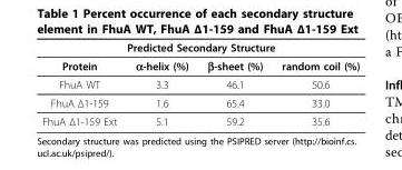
<table><thead><tr><td colspan="4">Predicted Secondary Structure</td></tr><tr><td>Protein</td><td>α-helix (%)</td><td>β-sheet (%)</td><td>random coil (%)</td></tr></thead><tbody><tr><td>FhuA WT</td><td>3.3</td><td>46.1</td><td>50.6</td></tr><tr><td>FhuA Δ1-159</td><td>1.6</td><td>65.4</td><td>33.0</td></tr><tr><td>FhuA Δ1-159 Ext</td><td>5.1</td><td>59.2</td><td>35.6</td></tr></tbody></table>